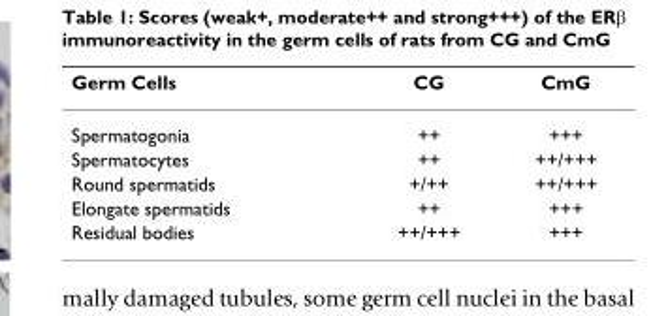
<table><thead><tr><td>Germ Cells</td><td>CG</td><td>CmG</td></tr></thead><tbody><tr><td>Spermatogonia</td><td>++</td><td>+++</td></tr><tr><td>Spermatocytes</td><td>++</td><td>++/+++</td></tr><tr><td>Round spermatids</td><td>+/++</td><td>++/+++</td></tr><tr><td>Elongate spermatids</td><td>++</td><td>+++</td></tr><tr><td>Residual bodies</td><td>++/+++</td><td>+++</td></tr></tbody></table>